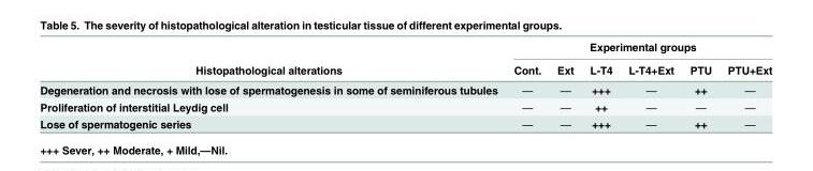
<table><thead><tr><td rowspan="2">Histopathological alterations</td><td colspan="6">Experimental groups</td></tr><tr><td>Cont.</td><td>Ext</td><td>L-T4</td><td>L-T4+Ext</td><td>PTU</td><td>PTU+Ext</td></tr></thead><tbody><tr><td>Degeneration and necrosis with lose of spermatogenesis in some of seminiferous tubules</td><td>—</td><td>—</td><td>+++</td><td>—</td><td>++</td><td>—</td></tr><tr><td>Proliferation of interstitial Leydig cell</td><td>—</td><td>—</td><td>++</td><td>—</td><td>—</td><td>—</td></tr><tr><td>Lose of spermatogenic series</td><td>—</td><td>—</td><td>+++</td><td>—</td><td>++</td><td>—</td></tr></tbody></table>